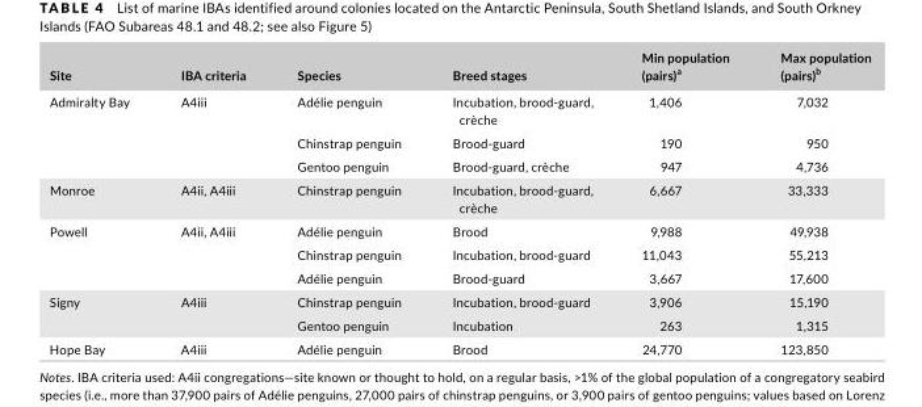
<table><thead><tr><td>Site</td><td>IBA criteria</td><td>Species</td><td>Breed stages</td><td>Min population (pairs)<sup>a</sup></td><td>Max population (pairs)<sup>b</sup></td></tr></thead><tbody><tr><td rowspan="3">Admiralty Bay</td><td rowspan="3">A4iii</td><td>Adélie penguin</td><td>Incubation, brood- guard, crèche</td><td>1,406</td><td>7,032</td></tr><tr><td>Chinstrap penguin</td><td>Brood- guard</td><td>190</td><td>950</td></tr><tr><td>Gentoo penguin</td><td>Brood- guard, crèche</td><td>947</td><td>4,736</td></tr><tr><td>Monroe</td><td>A4ii, A4iii</td><td>Chinstrap penguin</td><td>Incubation, brood- guard, crèche</td><td>6,667</td><td>33,333</td></tr><tr><td rowspan="3">Powell</td><td rowspan="3">A4ii, A4iii</td><td>Adélie penguin</td><td>Brood</td><td>9,988</td><td>49,938</td></tr><tr><td>Chinstrap penguin</td><td>Incubation, brood- guard</td><td>11,043</td><td>55,213</td></tr><tr><td>Adélie penguin</td><td>Brood- guard</td><td>3,667</td><td>17,600</td></tr><tr><td rowspan="2">Signy</td><td rowspan="2">A4iii</td><td>Chinstrap penguin</td><td>Incubation, brood- guard</td><td>3,906</td><td>15,190</td></tr><tr><td>Gentoo penguin</td><td>Incubation</td><td>263</td><td>1,315</td></tr><tr><td>Hope Bay</td><td>A4iii</td><td>Adélie penguin</td><td>Brood</td><td>24,770</td><td>123,850</td></tr></tbody></table>